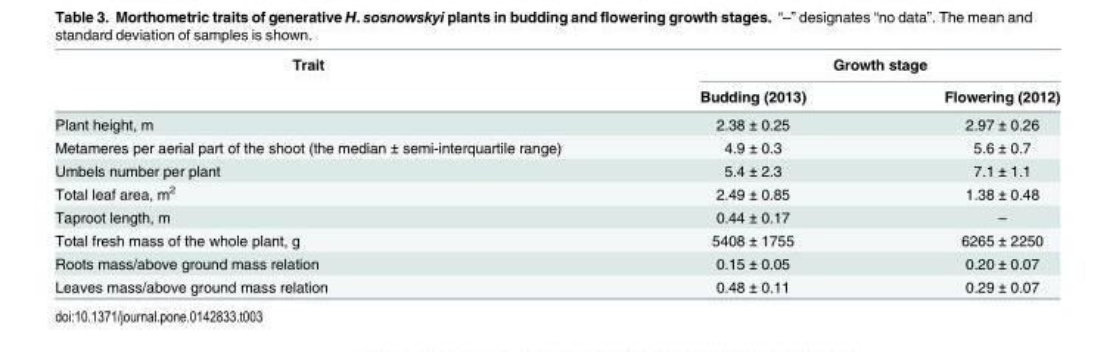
<table><thead><tr><td rowspan="2">Trait</td><td colspan="2">Growth stage</td></tr><tr><td>Budding (2013)</td><td>Flowering (2012)</td></tr></thead><tbody><tr><td>Plant height, m</td><td>2.38 ± 0.25</td><td>2.97 ± 0.26</td></tr><tr><td>Metameres per aerial part of the shoot (the median ± semi-interquartile range)</td><td>4.9 ± 0.3</td><td>5.6 ± 0.7</td></tr><tr><td>Umbels number per plant</td><td>5.4 ± 2.3</td><td>7.1 ± 1.1</td></tr><tr><td>Total leaf area, m<sup>2</sup></td><td>2.49 ± 0.85</td><td>1.38 ± 0.48</td></tr><tr><td>Taproot length, m</td><td>0.44 ± 0.17</td><td>–</td></tr><tr><td>Total fresh mass of the whole plant, g</td><td>5408 ± 1755</td><td>6265 ± 2250</td></tr><tr><td>Roots mass/above ground mass relation</td><td>0.15 ± 0.05</td><td>0.20 ± 0.07</td></tr><tr><td>Leaves mass/above ground mass relation</td><td>0.48 ± 0.11</td><td>0.29 ± 0.07</td></tr></tbody></table>